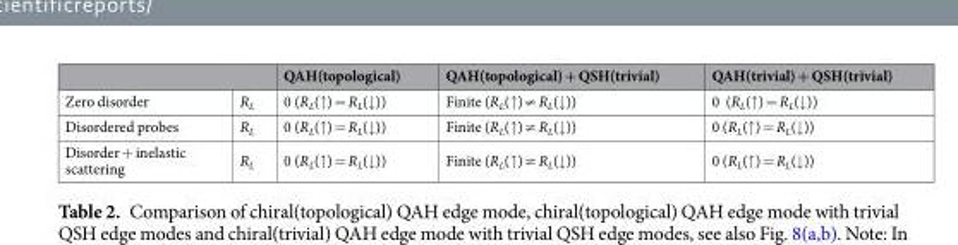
<table><thead><tr><td></td><td></td><td>QAH(topological)</td><td>QAH(topological) + QSH(trivial)</td><td>QAH(trivial) + QSH(trivial)</td></tr></thead><tbody><tr><td>Zero disorder</td><td>R<sub>L</sub></td><td>0 (R<sub>L</sub>(↑) = R<sub>L</sub>(↓))</td><td>Finite (R<sub>L</sub>(↑) ≠ R<sub>L</sub>(↓))</td><td>0 (R<sub>L</sub>(↑) = R<sub>L</sub>(↓))</td></tr><tr><td>Disordered probes</td><td>R<sub>L</sub></td><td>0 (R<sub>L</sub>(↑) = R<sub>L</sub>(↓))</td><td>Finite (R<sub>L</sub>(↑) ≠ R<sub>L</sub>(↓))</td><td>0 (R<sub>L</sub>(↑) = R<sub>L</sub>(↓))</td></tr><tr><td>Disorder + inelastic scattering</td><td>R<sub>L</sub></td><td>0 (R<sub>L</sub>(↑) = R<sub>L</sub>(↓))</td><td>Finite (R<sub>L</sub>(↑) ≠ R<sub>L</sub>(↓))</td><td>0 (R<sub>L</sub>(↑) = R<sub>L</sub>(↓))</td></tr></tbody></table>